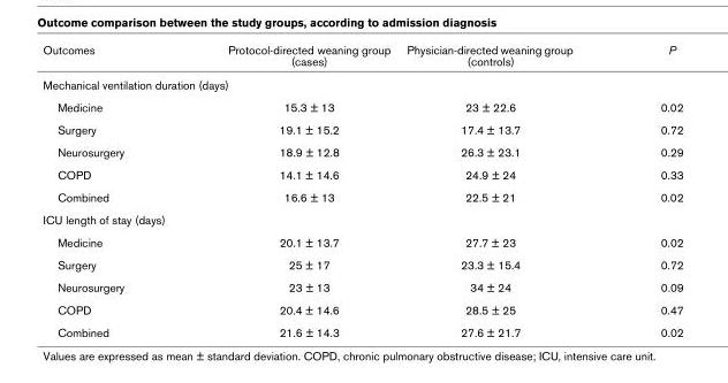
<table><thead><tr><td>Outcomes</td><td>Protocol-directed weaning group (cases)</td><td>Physician-directed weaning group (controls)</td><td>P</td></tr></thead><tbody><tr><td colspan="4">Mechanical ventilation duration (days)</td></tr><tr><td>Medicine</td><td>15.3 ± 13</td><td>23 ± 22.6</td><td>0.02</td></tr><tr><td>Surgery</td><td>19.1 ± 15.2</td><td>17.4 ± 13.7</td><td>0.72</td></tr><tr><td>Neurosurgery</td><td>18.9 ± 12.8</td><td>26.3 ± 23.1</td><td>0.29</td></tr><tr><td>COPD</td><td>14.1 ± 14.6</td><td>24.9 ± 24</td><td>0.33</td></tr><tr><td>Combined</td><td>16.6 ± 13</td><td>22.5 ± 21</td><td>0.02</td></tr><tr><td colspan="4">ICU length of stay (days)</td></tr><tr><td>Medicine</td><td>20.1 ± 13.7</td><td>27.7 ± 23</td><td>0.02</td></tr><tr><td>Surgery</td><td>25 ± 17</td><td>23.3 ± 15.4</td><td>0.72</td></tr><tr><td>Neurosurgery</td><td>23 ± 13</td><td>34 ± 24</td><td>0.09</td></tr><tr><td>COPD</td><td>20.4 ± 14.6</td><td>28.5 ± 25</td><td>0.47</td></tr><tr><td>Combined</td><td>21.6 ± 14.3</td><td>27.6 ± 21.7</td><td>0.02</td></tr></tbody></table>